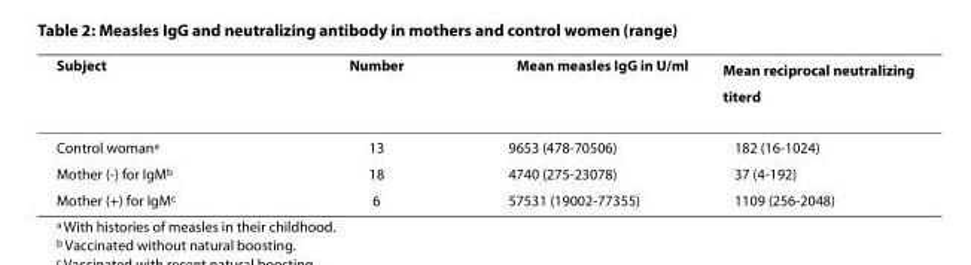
<table><thead><tr><td>Subject</td><td>Number</td><td>Mean measles IgG in U/ml</td><td>Mean reciprocal neutralizing titer<sup>d</sup></td></tr></thead><tbody><tr><td>Control woman<sup>a</sup></td><td>13</td><td>9653 (478-70506)</td><td>182 (16-1024)</td></tr><tr><td>Mother (-) for IgM<sup>b</sup></td><td>18</td><td>4740 (275-23078)</td><td>37 (4-192)</td></tr><tr><td>Mother (+) for IgM<sup>c</sup></td><td>6</td><td>57531 (19002-77355)</td><td>1109 (256-2048)</td></tr></tbody></table>